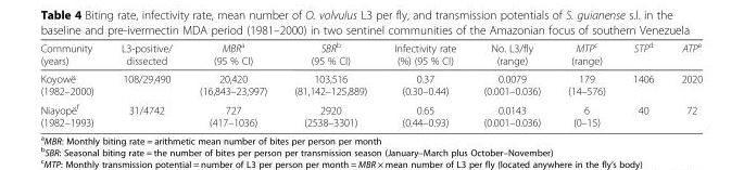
<table><thead><tr><td>Community (years)</td><td>L3-positive/ dissected</td><td>MBR<sup>a</sup> (95 % CI)</td><td>SBR<sup>b</sup> (95 % CI)</td><td>Infectivity rate (%) (95 % CI)</td><td>No. L3/fly (range)</td><td>MTP<sup>c</sup> (range)</td><td>STP<sup>d</sup></td><td>ATP<sup>e</sup></td></tr></thead><tbody><tr><td>Koyowë (1982–2000)</td><td>108/29,490</td><td>20,420 (16,843–23,997)</td><td>103,516 (81,142–125,889)</td><td>0.37 (0.30–0.44)</td><td>0.0079 (0.001–0.036)</td><td>179 (14–576)</td><td>1406</td><td>2020</td></tr><tr><td>Niayopë<sup>f</sup> (1982–1993)</td><td>31/4742</td><td>727 (417–1036)</td><td>2920 (2538–3301)</td><td>0.65 (0.44–0.93)</td><td>0.0143 (0.001–0.036)</td><td>6 (0–15)</td><td>40</td><td>72</td></tr></tbody></table>